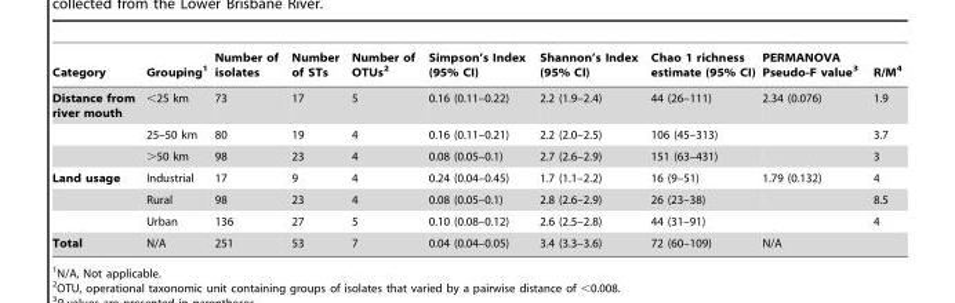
<table><thead><tr><td>Category</td><td>Grouping<sup>1</sup></td><td>Number of isolates</td><td>Number of STs</td><td>Number of OTUs<sup>2</sup></td><td>Simpson’s Index (95% CI)</td><td>Shannon’s Index (95% CI)</td><td>Chao 1 richness estimate (95% CI)</td><td>PERMANOVA Pseudo-F value<sup>3</sup></td><td>R/M<sup>4</sup></td></tr></thead><tbody><tr><td rowspan="3">Distance from river mouth</td><td>&lt;25 km</td><td>73</td><td>17</td><td>5</td><td>0.16 (0.11–0.22)</td><td>2.2 (1.9–2.4)</td><td>44 (26–111)</td><td>2.34 (0.076)</td><td>1.9</td></tr><tr><td>25–50 km</td><td>80</td><td>19</td><td>4</td><td>0.16 (0.11–0.21)</td><td>2.2 (2.0–2.5)</td><td>106 (45–313)</td><td></td><td>3.7</td></tr><tr><td>&gt;50 km</td><td>98</td><td>23</td><td>4</td><td>0.08 (0.05–0.1)</td><td>2.7 (2.6–2.9)</td><td>151 (63–431)</td><td></td><td>3</td></tr><tr><td rowspan="3">Land usage</td><td>Industrial</td><td>17</td><td>9</td><td>4</td><td>0.24 (0.04–0.45)</td><td>1.7 (1.1–2.2)</td><td>16 (9–51)</td><td>1.79 (0.132)</td><td>4</td></tr><tr><td>Rural</td><td>98</td><td>23</td><td>4</td><td>0.08 (0.05–0.1)</td><td>2.8 (2.6–2.9)</td><td>26 (23–38)</td><td></td><td>8.5</td></tr><tr><td>Urban</td><td>136</td><td>27</td><td>5</td><td>0.10 (0.08–0.12)</td><td>2.6 (2.5–2.8)</td><td>44 (31–91)</td><td></td><td>4</td></tr><tr><td>Total</td><td>N/A</td><td>251</td><td>53</td><td>7</td><td>0.04 (0.04–0.05)</td><td>3.4 (3.3–3.6)</td><td>72 (60–109)</td><td>N/A</td><td></td></tr></tbody></table>